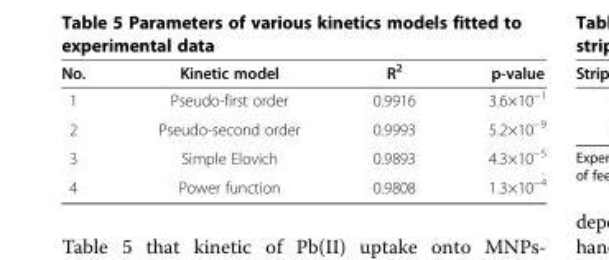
<table><thead><tr><td>No.</td><td>Kinetic model</td><td>R<sup>2</sup></td><td>p-value</td></tr></thead><tbody><tr><td>1</td><td>Pseudo-first order</td><td>0.9916</td><td>3.6×10<sup>−1</sup></td></tr><tr><td>2</td><td>Pseudo-second order</td><td>0.9993</td><td>5.2×10<sup>−9</sup></td></tr><tr><td>3</td><td>Simple Elovich</td><td>0.9893</td><td>4.3×10<sup>−5</sup></td></tr><tr><td>4</td><td>Power function</td><td>0.9808</td><td>1.3×10<sup>−4</sup></td></tr></tbody></table>